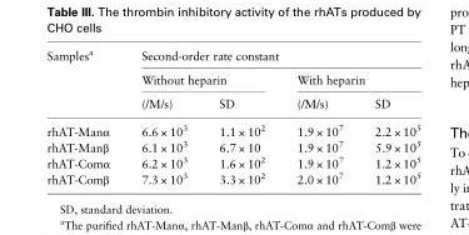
<table><thead><tr><td rowspan="3">Samples<sup>a</sup></td><td colspan="4">Second-order rate constant</td></tr><tr><td colspan="2">Without heparin</td><td colspan="2">With heparin</td></tr><tr><td>(/M/s)</td><td>SD</td><td>(/M/s)</td><td>SD</td></tr></thead><tbody><tr><td>rhAT-Manα</td><td>6.6 × 10<sup>3</sup></td><td>1.1 × 10<sup>2</sup></td><td>1.9 × 10<sup>7</sup></td><td>2.2 × 10<sup>5</sup></td></tr><tr><td>rhAT-Manβ</td><td>6.1 × 10<sup>3</sup></td><td>6.7 × 10</td><td>1.9 × 10<sup>7</sup></td><td>5.9 × 10<sup>5</sup></td></tr><tr><td>rhAT-Comα</td><td>6.2 × 10<sup>3</sup></td><td>1.6 × 10<sup>2</sup></td><td>1.9 × 10<sup>7</sup></td><td>1.2 × 10<sup>5</sup></td></tr><tr><td>rhAT-Comβ</td><td>7.3 × 10<sup>3</sup></td><td>3.3 × 10<sup>2</sup></td><td>2.0 × 10<sup>7</sup></td><td>1.2 × 10<sup>5</sup></td></tr></tbody></table>